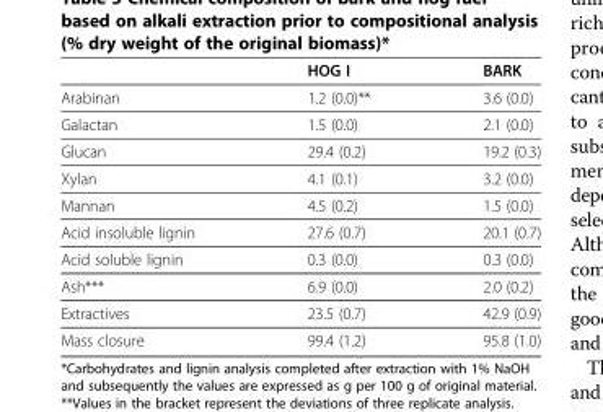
<table><thead><tr><td></td><td>HOG I</td><td>BARK</td></tr></thead><tbody><tr><td>Arabinan</td><td>1.2 (0.0)**</td><td>3.6 (0.0)</td></tr><tr><td>Galactan</td><td>1.5 (0.0)</td><td>2.1 (0.0)</td></tr><tr><td>Glucan</td><td>29.4 (0.2)</td><td>19.2 (0.3)</td></tr><tr><td>Xylan</td><td>4.1 (0.1)</td><td>3.2 (0.0)</td></tr><tr><td>Mannan</td><td>4.5 (0.2)</td><td>1.5 (0.0)</td></tr><tr><td>Acid insoluble lignin</td><td>27.6 (0.7)</td><td>20.1 (0.7)</td></tr><tr><td>Acid soluble lignin</td><td>0.3 (0.0)</td><td>0.3 (0.0)</td></tr><tr><td>Ash***</td><td>6.9 (0.0)</td><td>2.0 (0.2)</td></tr><tr><td>Extractives</td><td>23.5 (0.7)</td><td>42.9 (0.9)</td></tr><tr><td>Mass closure</td><td>99.4 (1.2)</td><td>95.8 (1.0)</td></tr></tbody></table>